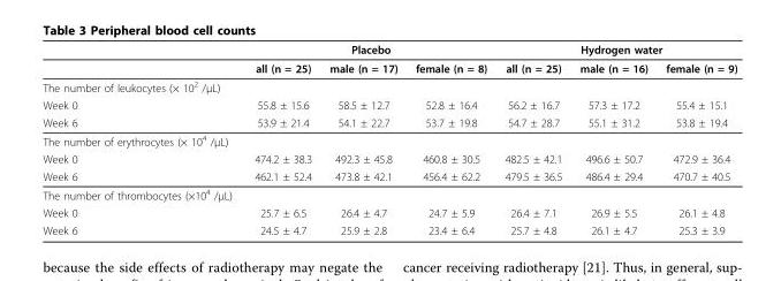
<table><thead><tr><td rowspan="2"></td><td colspan="3">Placebo</td><td colspan="3">Hydrogen water</td></tr><tr><td>all (n = 25)</td><td>male (n = 17)</td><td>female (n = 8)</td><td>all (n = 25)</td><td>male (n = 16)</td><td>female (n = 9)</td></tr></thead><tbody><tr><td colspan="7">The number of leukocytes (× 10<sup>2</sup> /μL)</td></tr><tr><td>Week 0</td><td>55.8 ± 15.6</td><td>58.5 ± 12.7</td><td>52.8 ± 16.4</td><td>56.2 ± 16.7</td><td>57.3 ± 17.2</td><td>55.4 ± 15.1</td></tr><tr><td>Week 6</td><td>53.9 ± 21.4</td><td>54.1 ± 22.7</td><td>53.7 ± 19.8</td><td>54.7 ± 28.7</td><td>55.1 ± 31.2</td><td>53.8 ± 19.4</td></tr><tr><td colspan="7">The number of erythrocytes (× 10<sup>4</sup> /μL)</td></tr><tr><td>Week 0</td><td>474.2 ± 38.3</td><td>492.3 ± 45.8</td><td>460.8 ± 30.5</td><td>482.5 ± 42.1</td><td>496.6 ± 50.7</td><td>472.9 ± 36.4</td></tr><tr><td>Week 6</td><td>462.1 ± 52.4</td><td>473.8 ± 42.1</td><td>456.4 ± 62.2</td><td>479.5 ± 36.5</td><td>486.4 ± 29.4</td><td>470.7 ± 40.5</td></tr><tr><td colspan="7">The number of thrombocytes (×10<sup>4</sup> /μL)</td></tr><tr><td>Week 0</td><td>25.7 ± 6.5</td><td>26.4 ± 4.7</td><td>24.7 ± 5.9</td><td>26.4 ± 7.1</td><td>26.9 ± 5.5</td><td>26.1 ± 4.8</td></tr><tr><td>Week 6</td><td>24.5 ± 4.7</td><td>25.9 ± 2.8</td><td>23.4 ± 6.4</td><td>25.7 ± 4.8</td><td>26.1 ± 4.7</td><td>25.3 ± 3.9</td></tr></tbody></table>